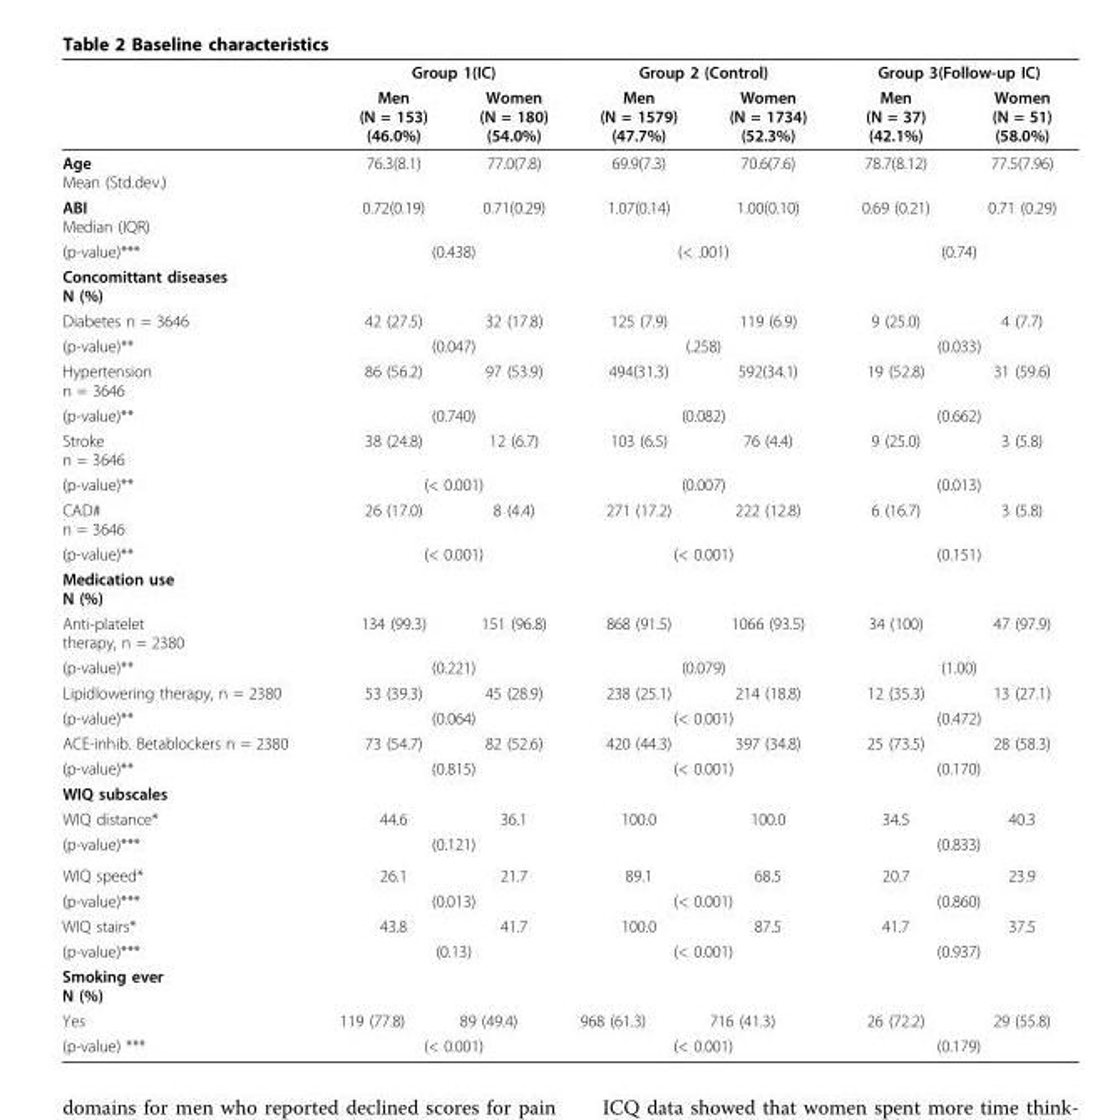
<table><thead><tr><td rowspan="2"></td><td colspan="2">Group 1(IC)</td><td colspan="2">Group 2 (Control)</td><td colspan="2">Group 3(Follow-up IC)</td></tr><tr><td>Men (N = 153) (46.0%)</td><td>Women (N = 180) (54.0%)</td><td>Men (N = 1579) (47.7%)</td><td>Women (N = 1734) (52.3%)</td><td>Men (N = 37) (42.1%)</td><td>Women (N = 51) (58.0%)</td></tr></thead><tbody><tr><td>Age Mean (Std.dev.)</td><td>76.3(8.1)</td><td>77.0(7.8)</td><td>69.9(7.3)</td><td>70.6(7.6)</td><td>78.7(8.12)</td><td>77.5(7.96)</td></tr><tr><td>ABI Median (IQR)</td><td>0.72(0.19)</td><td>0.71(0.29)</td><td>1.07(0.14)</td><td>1.00(0.10)</td><td>0.69 (0.21)</td><td>0.71 (0.29)</td></tr><tr><td>(p-value)***</td><td colspan="2">(0.438)</td><td colspan="2">(&lt; .001)</td><td colspan="2">(0.74)</td></tr><tr><td colspan="7">Concomittant diseases N (%)</td></tr><tr><td>Diabetes n = 3646</td><td>42 (27.5)</td><td>32 (17.8)</td><td>125 (7.9)</td><td>119 (6.9)</td><td>9 (25.0)</td><td>4 (7.7)</td></tr><tr><td>(p-value)**</td><td colspan="2">(0.047)</td><td colspan="2">(.258)</td><td colspan="2">(0.033)</td></tr><tr><td>Hypertension n = 3646</td><td>86 (56.2)</td><td>97 (53.9)</td><td>494(31.3)</td><td>592(34.1)</td><td>19 (52.8)</td><td>31 (59.6)</td></tr><tr><td>(p-value)**</td><td colspan="2">(0.740)</td><td colspan="2">(0.082)</td><td colspan="2">(0.662)</td></tr><tr><td>Stroke n = 3646</td><td>38 (24.8)</td><td>12 (6.7)</td><td>103 (6.5)</td><td>76 (4.4)</td><td>9 (25.0)</td><td>3 (5.8)</td></tr><tr><td>(p-value)**</td><td colspan="2">(&lt; 0.001)</td><td colspan="2">(0.007)</td><td colspan="2">(0.013)</td></tr><tr><td>CAD# n = 3646</td><td>26 (17.0)</td><td>8 (4.4)</td><td>271 (17.2)</td><td>222 (12.8)</td><td>6 (16.7)</td><td>3 (5.8)</td></tr><tr><td>(p-value)**</td><td colspan="2">(&lt; 0.001)</td><td colspan="2">(&lt; 0.001)</td><td colspan="2">(0.151)</td></tr><tr><td colspan="7">Medication use N (%)</td></tr><tr><td>Anti-platelet therapy, n = 2380</td><td>134 (99.3)</td><td>151 (96.8)</td><td>868 (91.5)</td><td>1066 (93.5)</td><td>34 (100)</td><td>47 (97.9)</td></tr><tr><td>(p-value)**</td><td colspan="2">(0.221)</td><td colspan="2">(0.079)</td><td colspan="2">(1.00)</td></tr><tr><td>Lipidlowering therapy, n = 2380</td><td>53 (39.3)</td><td>45 (28.9)</td><td>238 (25.1)</td><td>214 (18.8)</td><td>12 (35.3)</td><td>13 (27.1)</td></tr><tr><td>(p-value)**</td><td colspan="2">(0.064)</td><td colspan="2">(&lt; 0.001)</td><td colspan="2">(0.472)</td></tr><tr><td>ACE-inhib. Betablockers n = 2380</td><td>73 (54.7)</td><td>82 (52.6)</td><td>420 (44.3)</td><td>397 (34.8)</td><td>25 (73.5)</td><td>28 (58.3)</td></tr><tr><td>(p-value)**</td><td colspan="2">(0.815)</td><td colspan="2">(&lt; 0.001)</td><td colspan="2">(0.170)</td></tr><tr><td colspan="7">WIQ subscales</td></tr><tr><td>WIQ distance*</td><td>44.6</td><td>36.1</td><td>100.0</td><td>100.0</td><td>34.5</td><td>40.3</td></tr><tr><td>(p-value)***</td><td colspan="2">(0.121)</td><td colspan="2"></td><td colspan="2">(0.833)</td></tr><tr><td>WIQ speed*</td><td>26.1</td><td>21.7</td><td>89.1</td><td>68.5</td><td>20.7</td><td>23.9</td></tr><tr><td>(p-value)***</td><td colspan="2">(0.013)</td><td colspan="2">(&lt; 0.001)</td><td colspan="2">(0.860)</td></tr><tr><td>WIQ stairs*</td><td>43.8</td><td>41.7</td><td>100.0</td><td>87.5</td><td>41.7</td><td>37.5</td></tr><tr><td>(p-value)***</td><td colspan="2">(0.13)</td><td colspan="2">(&lt; 0.001)</td><td colspan="2">(0.937)</td></tr><tr><td colspan="7">Smoking ever N (%)</td></tr><tr><td>Yes</td><td>119 (77.8)</td><td>89 (49.4)</td><td>968 (61.3)</td><td>716 (41.3)</td><td>26 (72.2)</td><td>29 (55.8)</td></tr><tr><td>(p-value) ***</td><td colspan="2">(&lt; 0.001)</td><td colspan="2">(&lt; 0.001)</td><td colspan="2">(0.179)</td></tr></tbody></table>